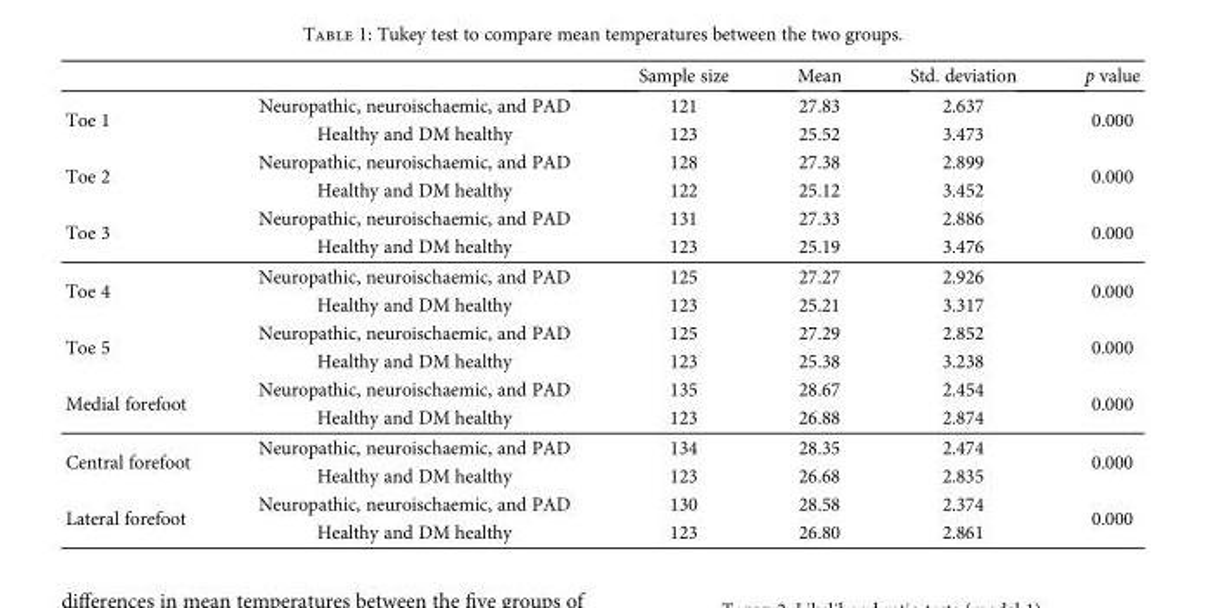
<table><thead><tr><td></td><td></td><td>Sample size</td><td>Mean</td><td>Std. deviation</td><td>p value</td></tr></thead><tbody><tr><td rowspan="2">Toe 1</td><td>Neuropathic, neuroischaemic, and PAD</td><td>121</td><td>27.83</td><td>2.637</td><td rowspan="2">0.000</td></tr><tr><td>Healthy and DM healthy</td><td>123</td><td>25.52</td><td>3.473</td></tr><tr><td rowspan="2">Toe 2</td><td>Neuropathic, neuroischaemic, and PAD</td><td>128</td><td>27.38</td><td>2.899</td><td rowspan="2">0.000</td></tr><tr><td>Healthy and DM healthy</td><td>122</td><td>25.12</td><td>3.452</td></tr><tr><td rowspan="2">Toe 3</td><td>Neuropathic, neuroischaemic, and PAD</td><td>131</td><td>27.33</td><td>2.886</td><td rowspan="2">0.000</td></tr><tr><td>Healthy and DM healthy</td><td>123</td><td>25.19</td><td>3.476</td></tr><tr><td rowspan="2">Toe 4</td><td>Neuropathic, neuroischaemic, and PAD</td><td>125</td><td>27.27</td><td>2.926</td><td rowspan="2">0.000</td></tr><tr><td>Healthy and DM healthy</td><td>123</td><td>25.21</td><td>3.317</td></tr><tr><td rowspan="2">Toe 5</td><td>Neuropathic, neuroischaemic, and PAD</td><td>125</td><td>27.29</td><td>2.852</td><td rowspan="2">0.000</td></tr><tr><td>Healthy and DM healthy</td><td>123</td><td>25.38</td><td>3.238</td></tr><tr><td rowspan="2">Medial forefoot</td><td>Neuropathic, neuroischaemic, and PAD</td><td>135</td><td>28.67</td><td>2.454</td><td rowspan="2">0.000</td></tr><tr><td>Healthy and DM healthy</td><td>123</td><td>26.88</td><td>2.874</td></tr><tr><td rowspan="2">Central forefoot</td><td>Neuropathic, neuroischaemic, and PAD</td><td>134</td><td>28.35</td><td>2.474</td><td rowspan="2">0.000</td></tr><tr><td>Healthy and DM healthy</td><td>123</td><td>26.68</td><td>2.835</td></tr><tr><td rowspan="2">Lateral forefoot</td><td>Neuropathic, neuroischaemic, and PAD</td><td>130</td><td>28.58</td><td>2.374</td><td rowspan="2">0.000</td></tr><tr><td>Healthy and DM healthy</td><td>123</td><td>26.80</td><td>2.861</td></tr></tbody></table>